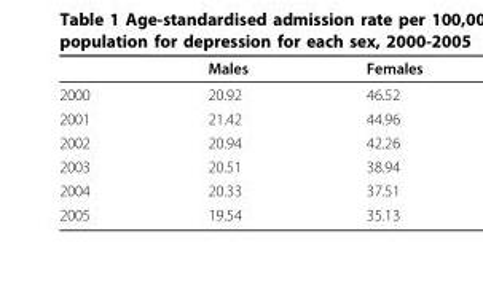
<table><thead><tr><td></td><td>Males</td><td>Females</td></tr></thead><tbody><tr><td>2000</td><td>20.92</td><td>46.52</td></tr><tr><td>2001</td><td>21.42</td><td>44.96</td></tr><tr><td>2002</td><td>20.94</td><td>42.26</td></tr><tr><td>2003</td><td>20.51</td><td>38.94</td></tr><tr><td>2004</td><td>20.33</td><td>37.51</td></tr><tr><td>2005</td><td>19.54</td><td>35.13</td></tr></tbody></table>